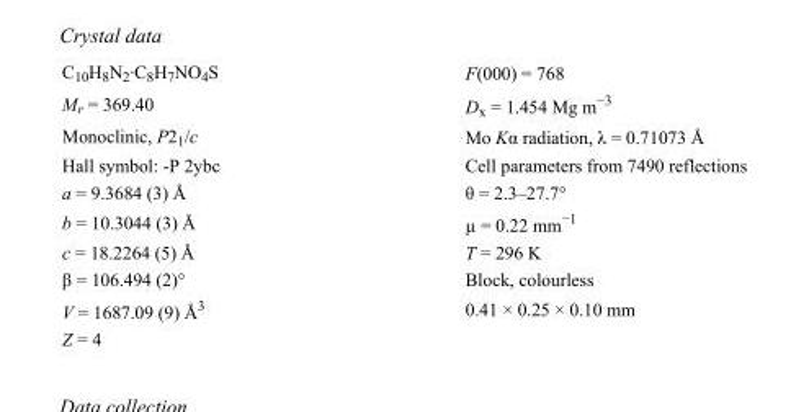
<table><tbody><tr><td>C<sub>10</sub>H<sub>8</sub>N<sub>2</sub>·C<sub>8</sub>H<sub>7</sub>NO<sub>4</sub>S</td><td>F(000) = 768</td></tr><tr><td>M<sub>r</sub> = 369.40</td><td>D<sub>x</sub> = 1.454 Mg m<sup>−3</sup></td></tr><tr><td>Monoclinic, P2<sub>1</sub>/c</td><td>Mo Kα radiation, λ = 0.71073 Å</td></tr><tr><td>Hall symbol: -P 2ybc</td><td>Cell parameters from 7490 reflections</td></tr><tr><td>a = 9.3684 (3) Å</td><td>θ = 2.3–27.7°</td></tr><tr><td>b = 10.3044 (3) Å</td><td>µ = 0.22 mm<sup>−1</sup></td></tr><tr><td>c = 18.2264 (5) Å</td><td>T = 296 K</td></tr><tr><td>β = 106.494 (2)°</td><td>Block, colourless</td></tr><tr><td>V = 1687.09 (9) Å<sup>3</sup></td><td>0.41 × 0.25 × 0.10 mm</td></tr><tr><td>Z = 4</td><td></td></tr></tbody></table>